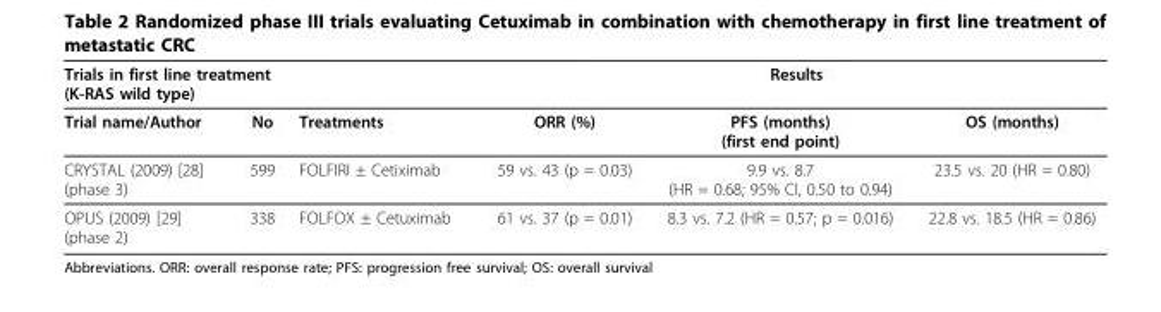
<table><thead><tr><td colspan="3">Trials in first line treatment (K-RAS wild type)</td><td colspan="3">Results</td></tr><tr><td>Trial name/Author</td><td>No</td><td>Treatments</td><td>ORR (%)</td><td>PFS (months) (first end point)</td><td>OS (months)</td></tr></thead><tbody><tr><td>CRYSTAL (2009) [28] (phase 3)</td><td>599</td><td>FOLFIRI ± Cetiximab</td><td>59 vs. 43 (p = 0.03)</td><td>9.9 vs. 8.7 (HR = 0.68; 95% CI, 0.50 to 0.94)</td><td>23.5 vs. 20 (HR = 0.80)</td></tr><tr><td>OPUS (2009) [29] (phase 2)</td><td>338</td><td>FOLFOX ± Cetuximab</td><td>61 vs. 37 (p = 0.01)</td><td>8.3 vs. 7.2 (HR = 0.57; p = 0.016)</td><td>22.8 vs. 18.5 (HR = 0.86)</td></tr></tbody></table>